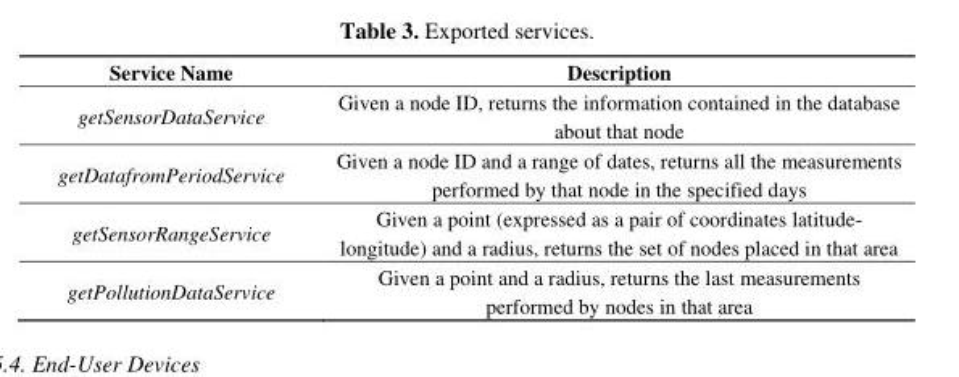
<table><thead><tr><td>Service Name</td><td>Description</td></tr></thead><tbody><tr><td>getSensorDataService</td><td>Given a node ID, returns the information contained in the database about that node</td></tr><tr><td>getDatafromPeriodService</td><td>Given a node ID and a range of dates, returns all the measurements performed by that node in the specified days</td></tr><tr><td>getSensorRangeService</td><td>Given a point (expressed as a pair of coordinates latitude- longitude) and a radius, returns the set of nodes placed in that area</td></tr><tr><td>getPollutionDataService</td><td>Given a point and a radius, returns the last measurements performed by nodes in that area</td></tr></tbody></table>